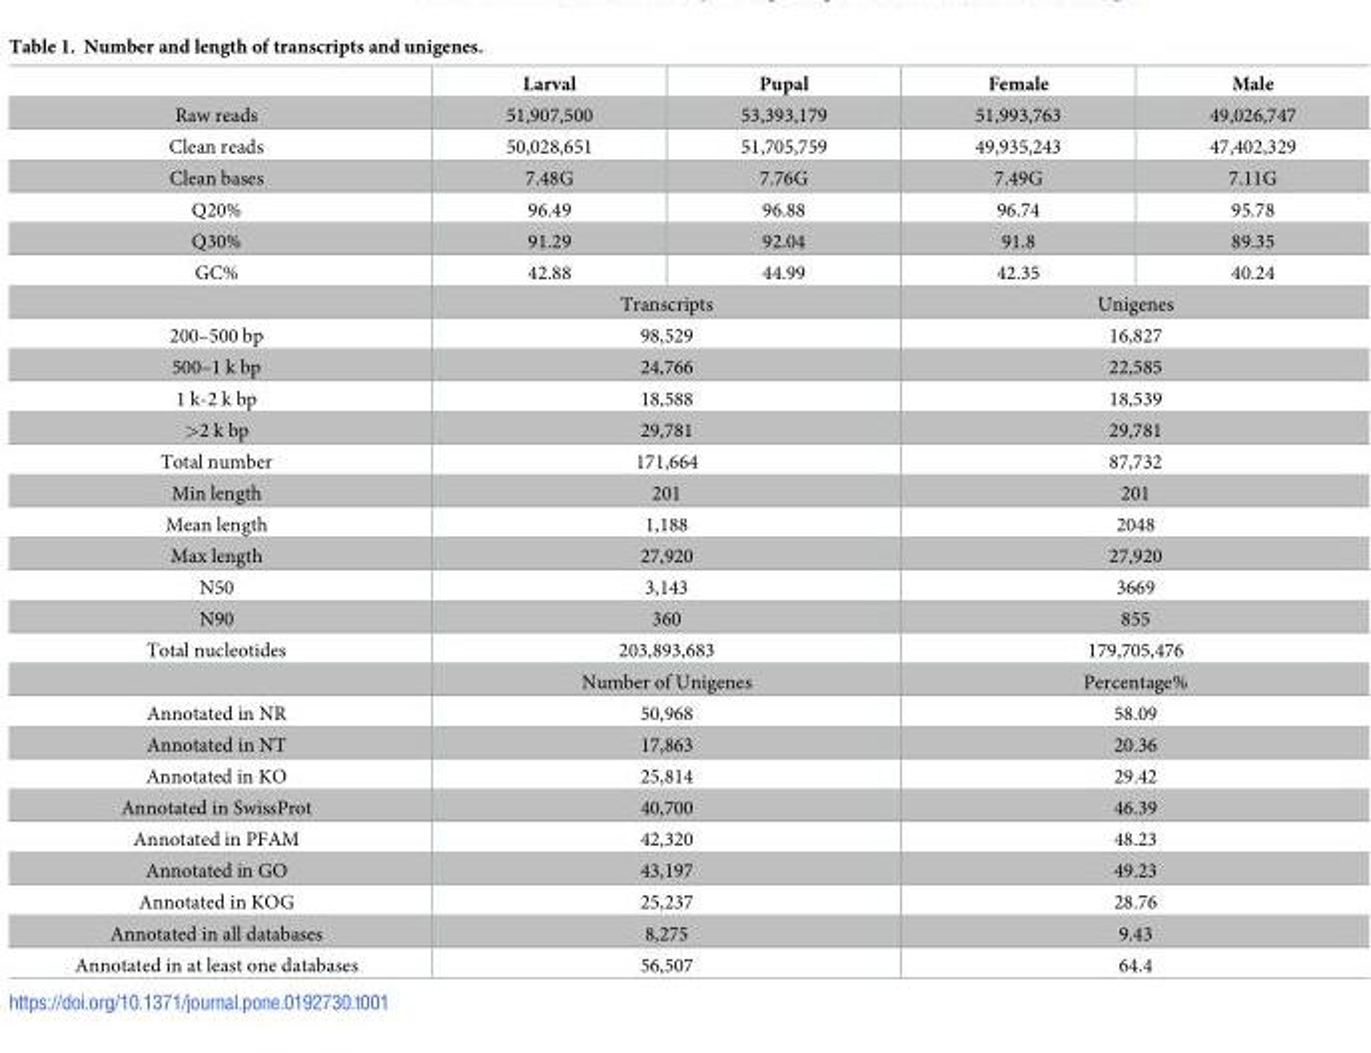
<table><thead><tr><td></td><td>Larval</td><td>Pupal</td><td>Female</td><td>Male</td></tr></thead><tbody><tr><td>Raw reads</td><td>51,907,500</td><td>53,393,179</td><td>51,993,763</td><td>49,026,747</td></tr><tr><td>Clean reads</td><td>50,028,651</td><td>51,705,759</td><td>49,935,243</td><td>47,402,329</td></tr><tr><td>Clean bases</td><td>7.48G</td><td>7.76G</td><td>7.49G</td><td>7.11G</td></tr><tr><td>Q20%</td><td>96.49</td><td>96.88</td><td>96.74</td><td>95.78</td></tr><tr><td>Q30%</td><td>91.29</td><td>92.04</td><td>91.8</td><td>89.35</td></tr><tr><td rowspan="2">GC%</td><td>42.88</td><td>44.99</td><td>42.35</td><td>40.24</td></tr><tr><td colspan="2">Transcripts</td><td colspan="2">Unigenes</td></tr><tr><td>200–500 bp</td><td colspan="2">98,529</td><td colspan="2">16,827</td></tr><tr><td>500–1 k bp</td><td colspan="2">24,766</td><td colspan="2">22,585</td></tr><tr><td>1 k-2 k bp</td><td colspan="2">18,588</td><td colspan="2">18,539</td></tr><tr><td>&gt;2 k bp</td><td colspan="2">29,781</td><td colspan="2">29,781</td></tr><tr><td>Total number</td><td colspan="2">171,664</td><td colspan="2">87,732</td></tr><tr><td>Min length</td><td colspan="2">201</td><td colspan="2">201</td></tr><tr><td>Mean length</td><td colspan="2">1,188</td><td colspan="2">2048</td></tr><tr><td>Max length</td><td colspan="2">27,920</td><td colspan="2">27,920</td></tr><tr><td>N50</td><td colspan="2">3,143</td><td colspan="2">3669</td></tr><tr><td>N90</td><td colspan="2">360</td><td colspan="2">855</td></tr><tr><td rowspan="2">Total nucleotides</td><td colspan="2">203,893,683</td><td colspan="2">179,705,476</td></tr><tr><td colspan="2">Number of Unigenes</td><td colspan="2">Percentage%</td></tr><tr><td>Annotated in NR</td><td colspan="2">50,968</td><td colspan="2">58.09</td></tr><tr><td>Annotated in NT</td><td colspan="2">17,863</td><td colspan="2">20.36</td></tr><tr><td>Annotated in KO</td><td colspan="2">25,814</td><td colspan="2">29.42</td></tr><tr><td>Annotated in SwissProt</td><td colspan="2">40,700</td><td colspan="2">46.39</td></tr><tr><td>Annotated in PFAM</td><td colspan="2">42,320</td><td colspan="2">48.23</td></tr><tr><td>Annotated in GO</td><td colspan="2">43,197</td><td colspan="2">49.23</td></tr><tr><td>Annotated in KOG</td><td colspan="2">25,237</td><td colspan="2">28.76</td></tr><tr><td>Annotated in all databases</td><td colspan="2">8,275</td><td colspan="2">9.43</td></tr><tr><td>Annotated in at least one databases</td><td colspan="2">56,507</td><td colspan="2">64.4</td></tr></tbody></table>